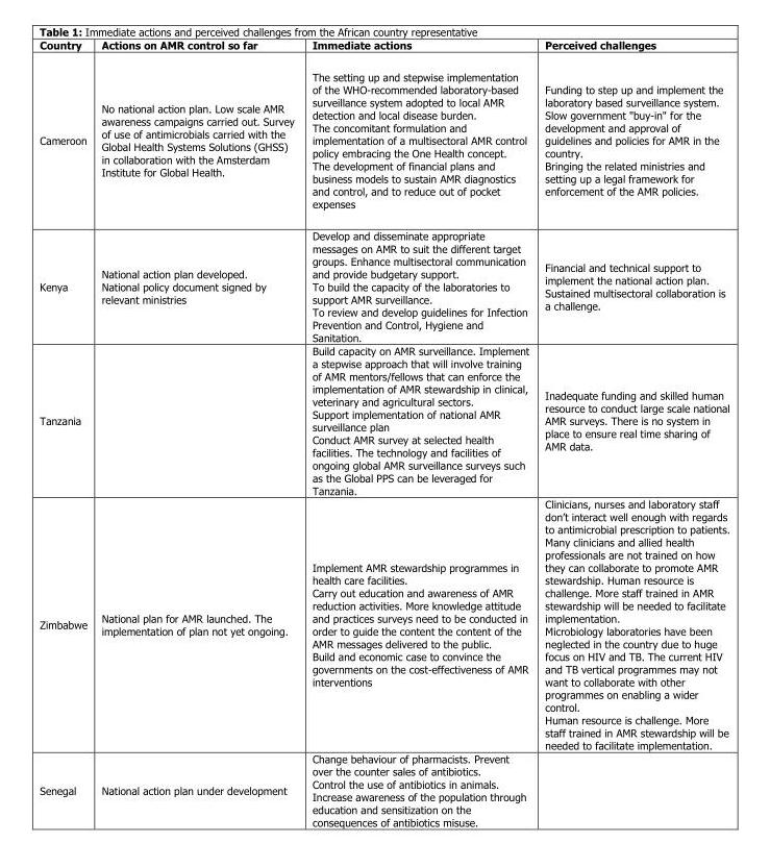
<table><thead><tr><td>Country</td><td>Actions on AMR control so far</td><td>Immediate actions</td><td>Perceived challenges</td></tr></thead><tbody><tr><td>Cameroon</td><td>No national action plan. Low scale AMR awareness campaigns carried out. Survey of use of antimicrobials carried with the Global Health Systems Solutions (GHSS) in collaboration with the Amsterdam Institute for Global Health.</td><td>The setting up and stepwise implementation of the WHO-recommended laboratory-based surveillance system adopted to local AMR detection and local disease burden. The concomitant formulation and implementation of a multisectoral AMR control policy embracing the One Health concept. The development of financial plans and business models to sustain AMR diagnostics and control, and to reduce out of pocket expenses</td><td>Funding to step up and implement the laboratory based surveillance system. Slow government &quot;buy-in&quot; for the development and approval of guidelines and policies for AMR in the country. Bringing the related ministries and setting up a legal framework for enforcement of the AMR policies.</td></tr><tr><td>Kenya</td><td>National action plan developed. National policy document signed by relevant ministries</td><td>Develop and disseminate appropriate messages on AMR to suit the different target groups. Enhance multisectoral communication and provide budgetary support. To build the capacity of the laboratories to support AMR surveillance. To review and develop guidelines for Infection Prevention and Control, Hygiene and Sanitation.</td><td>Financial and technical support to implement the national action plan. Sustained multisectoral collaboration is a challenge.</td></tr><tr><td>Tanzania</td><td></td><td>Build capacity on AMR surveillance. Implement a stepwise approach that will involve training of AMR mentors/fellows that can enforce the implementation of AMR stewardship in clinical, veterinary and agricultural sectors. Support implementation of national AMR surveillance plan Conduct AMR survey at selected health facilities. The technology and facilities of ongoing global AMR surveillance surveys such as the Global PPS can be leveraged for Tanzania.</td><td>Inadequate funding and skilled human resource to conduct large scale national AMR surveys. There is no system in place to ensure real time sharing of AMR data.</td></tr><tr><td>Zimbabwe</td><td>National plan for AMR launched. The implementation of plan not yet ongoing.</td><td>Implement AMR stewardship programmes in health care facilities. Carry out education and awareness of AMR reduction activities. More knowledge attitude and practices surveys need to be conducted in order to guide the content the content of the AMR messages delivered to the public. Build and economic case to convince the governments on the cost-effectiveness of AMR interventions</td><td>Clinicians, nurses and laboratory staff don’t interact well enough with regards to antimicrobial prescription to patients. Many clinicians and allied health professionals are not trained on how they can collaborate to promote AMR stewardship. Human resource is challenge. More staff trained in AMR stewardship will be needed to facilitate implementation. Microbiology laboratories have been neglected in the country due to huge focus on HIV and TB. The current HIV and TB vertical programmes may not want to collaborate with other programmes on enabling a wider control. Human resource is challenge. More staff trained in AMR stewardship will be needed to facilitate implementation.</td></tr><tr><td>Senegal</td><td>National action plan under development</td><td>Change behaviour of pharmacists. Prevent over the counter sales of antibiotics. Control the use of antibiotics in animals. Increase awareness of the population through education and sensitization on the consequences of antibiotics misuse.</td><td></td></tr></tbody></table>